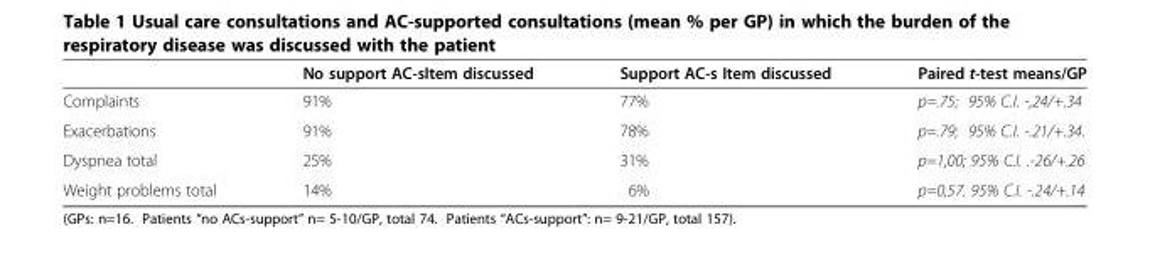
<table><thead><tr><td></td><td>No support AC-sItem discussed</td><td>Support AC-s Item discussed</td><td>Paired t-test means/GP</td></tr></thead><tbody><tr><td>Complaints</td><td>91%</td><td>77%</td><td>p=.75; 95% C.I. -,24/+.34</td></tr><tr><td>Exacerbations</td><td>91%</td><td>78%</td><td>p=.79; 95% C.I. -.21/+.34.</td></tr><tr><td>Dyspnea total</td><td>25%</td><td>31%</td><td>p=1,00; 95% C.I. .-26/+.26</td></tr><tr><td>Weight problems total</td><td>14%</td><td>6%</td><td>p=0,57. 95% C.I. -.24/+.14</td></tr></tbody></table>